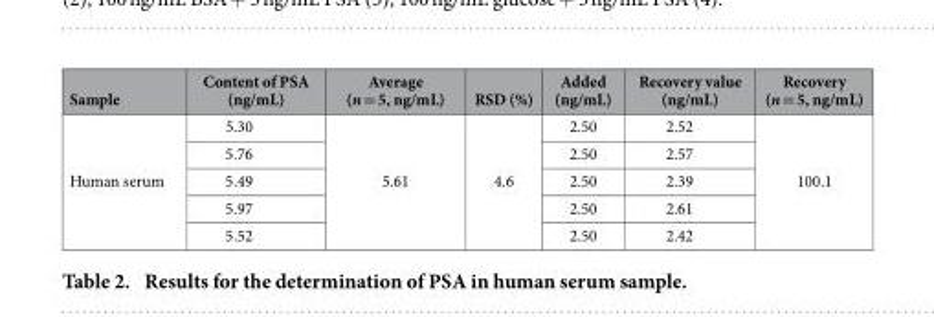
<table><thead><tr><td>Sample</td><td>Content of PSA (ng/mL)</td><td>Average (n = 5, ng/mL)</td><td>RSD (%)</td><td>Added (ng/mL)</td><td>Recovery value (ng/mL)</td><td>Recovery (n = 5, ng/mL)</td></tr></thead><tbody><tr><td rowspan="5">Human serum</td><td>5.30</td><td rowspan="5">5.61</td><td rowspan="5">4.6</td><td>2.50</td><td>2.52</td><td rowspan="5">100.1</td></tr><tr><td>5.76</td><td>2.50</td><td>2.57</td></tr><tr><td>5.49</td><td>2.50</td><td>2.39</td></tr><tr><td>5.97</td><td>2.50</td><td>2.61</td></tr><tr><td>5.52</td><td>2.50</td><td>2.42</td></tr></tbody></table>